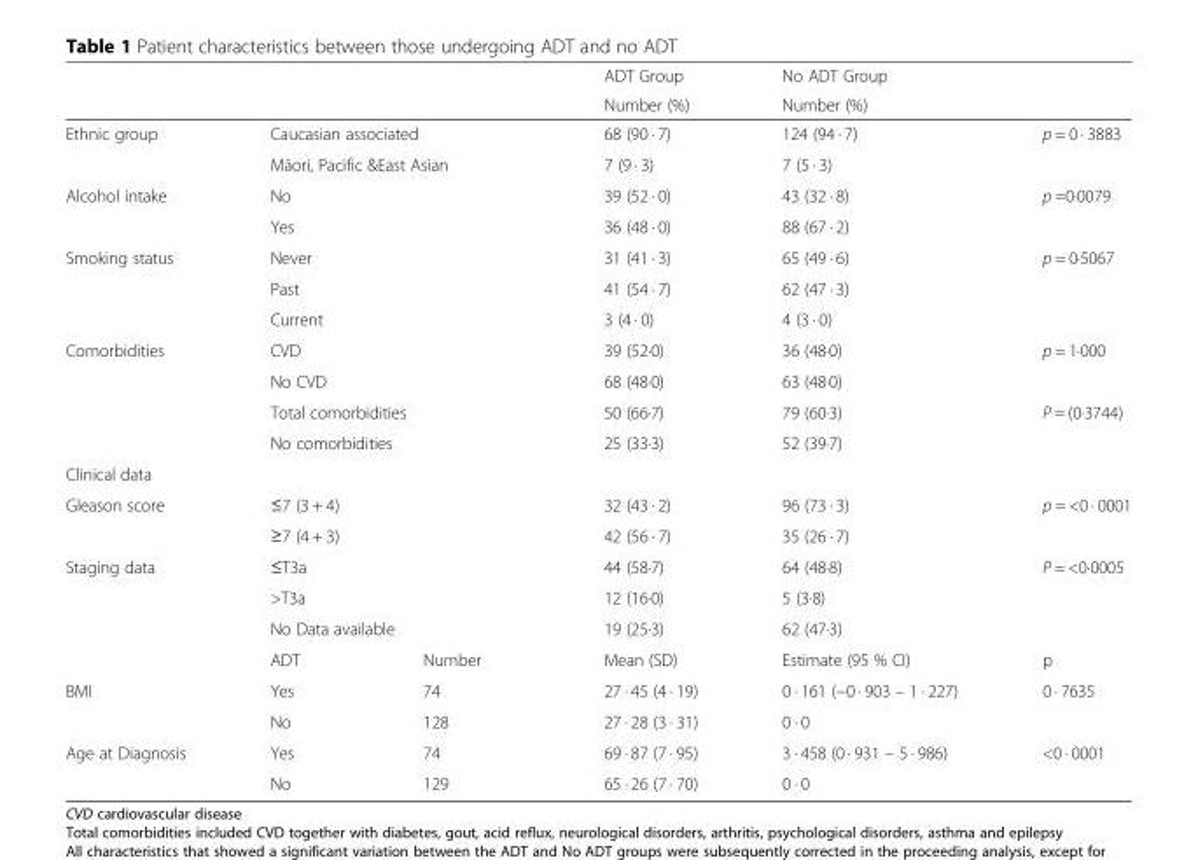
<table><thead><tr><td rowspan="2"></td><td rowspan="2"></td><td rowspan="2"></td><td rowspan="2">ADT Group Number (%)</td><td rowspan="2">No ADT Group Number (%)</td><td rowspan="2"></td></tr><tr></tr></thead><tbody><tr><td rowspan="2">Ethnic group</td><td colspan="2">Caucasian associated</td><td>68 (90 · 7)</td><td>124 (94 · 7)</td><td rowspan="2">p = 0 · 3883</td></tr><tr><td colspan="2">Māori, Pacific &amp;East Asian</td><td>7 (9 · 3)</td><td>7 (5 · 3)</td></tr><tr><td rowspan="2">Alcohol intake</td><td colspan="2">No</td><td>39 (52 · 0)</td><td>43 (32 · 8)</td><td rowspan="2">p =0·0079</td></tr><tr><td colspan="2">Yes</td><td>36 (48 · 0)</td><td>88 (67 · 2)</td></tr><tr><td rowspan="3">Smoking status</td><td colspan="2">Never</td><td>31 (41 · 3)</td><td>65 (49 · 6)</td><td rowspan="3">p = 0·5067</td></tr><tr><td colspan="2">Past</td><td>41 (54 · 7)</td><td>62 (47 · 3)</td></tr><tr><td colspan="2">Current</td><td>3 (4 · 0)</td><td>4 (3 · 0)</td></tr><tr><td rowspan="4">Comorbidities</td><td colspan="2">CVD</td><td>39 (52·0)</td><td>36 (48·0)</td><td>p = 1·000</td></tr><tr><td colspan="2">No CVD</td><td>68 (48·0)</td><td>63 (48·0)</td><td></td></tr><tr><td colspan="2">Total comorbidities</td><td>50 (66·7)</td><td>79 (60·3)</td><td>P = (0·3744)</td></tr><tr><td colspan="2">No comorbidities</td><td>25 (33·3)</td><td>52 (39·7)</td><td></td></tr><tr><td colspan="6">Clinical data</td></tr><tr><td rowspan="2">Gleason score</td><td colspan="2">≤7 (3 + 4)</td><td>32 (43 · 2)</td><td>96 (73 · 3)</td><td>p = &lt;0 · 0001</td></tr><tr><td colspan="2">≥7 (4 + 3)</td><td>42 (56 · 7)</td><td>35 (26 · 7)</td><td></td></tr><tr><td rowspan="4">Staging data</td><td colspan="2">≤T3a</td><td>44 (58·7)</td><td>64 (48·8)</td><td>P = &lt;0·0005</td></tr><tr><td colspan="2">&gt;T3a</td><td>12 (16·0)</td><td>5 (3·8)</td><td rowspan="2"></td></tr><tr><td colspan="2">No Data available</td><td>19 (25·3)</td><td>62 (47·3)</td></tr><tr><td>ADT</td><td>Number</td><td>Mean (SD)</td><td>Estimate (95 % CI)</td><td>p</td></tr><tr><td rowspan="2">BMI</td><td>Yes</td><td>74</td><td>27 · 45 (4 · 19)</td><td>0 · 161 (−0 · 903 – 1 · 227)</td><td>0 · 7635</td></tr><tr><td>No</td><td>128</td><td>27 · 28 (3 · 31)</td><td>0 · 0</td><td></td></tr><tr><td rowspan="2">Age at Diagnosis</td><td>Yes</td><td>74</td><td>69 · 87 (7 · 95)</td><td>3 · 458 (0 · 931 – 5 · 986)</td><td>&lt;0 · 0001</td></tr><tr><td>No</td><td>129</td><td>65 · 26 (7 · 70)</td><td>0 · 0</td><td></td></tr></tbody></table>